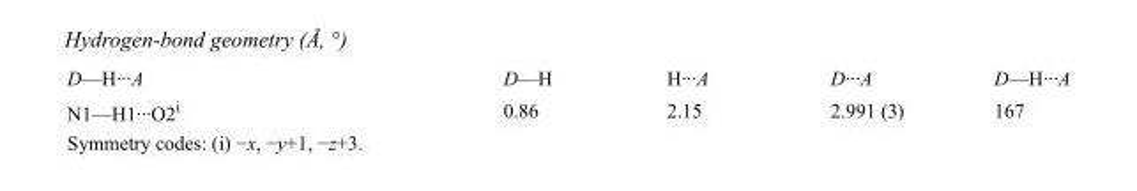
<table><tbody><tr><td>D—H···A</td><td>D—H</td><td>H···A</td><td>D···A</td><td>D—H···A</td></tr><tr><td>N1—H1···O2<sup>i</sup></td><td>0.86</td><td>2.15</td><td>2.991 (3)</td><td>167</td></tr></tbody></table>